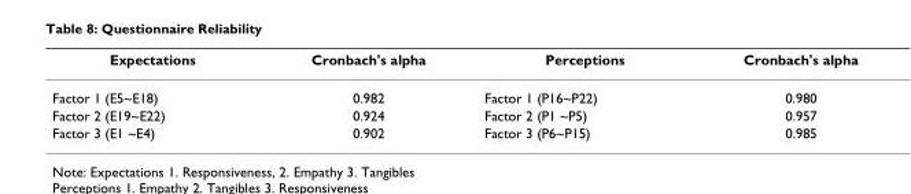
<table><thead><tr><td>Expectations</td><td>Cronbach&#x27;s alpha</td><td>Perceptions</td><td>Cronbach&#x27;s alpha</td></tr></thead><tbody><tr><td>Factor 1 (E5~E18)</td><td>0.982</td><td>Factor 1 (P16~P22)</td><td>0.980</td></tr><tr><td>Factor 2 (E19~E22)</td><td>0.924</td><td>Factor 2 (P1 ~P5)</td><td>0.957</td></tr><tr><td>Factor 3 (E1 ~E4)</td><td>0.902</td><td>Factor 3 (P6~P15)</td><td>0.985</td></tr></tbody></table>